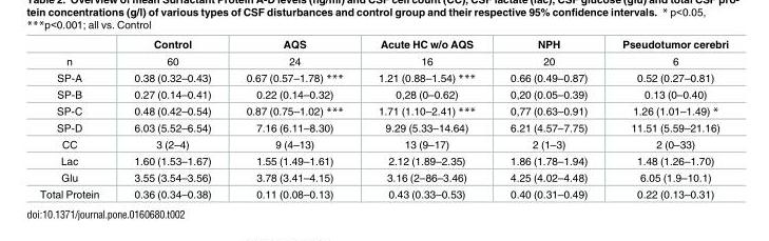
<table><thead><tr><td></td><td>Control</td><td>AQS</td><td>Acute HC w/o AQS</td><td>NPH</td><td>Pseudotumor cerebri</td></tr></thead><tbody><tr><td>n</td><td>60</td><td>24</td><td>16</td><td>20</td><td>6</td></tr><tr><td>SP-A</td><td>0.38 (0.32–0.43)</td><td>0.67 (0.57–1.78) ***</td><td>1.21 (0.88–1.54) ***</td><td>0.66 (0.49–0.87)</td><td>0.52 (0.27–0.81)</td></tr><tr><td>SP-B</td><td>0.27 (0.14–0.41)</td><td>0.22 (0.14–0.32)</td><td>0,28 (0–0.62)</td><td>0,20 (0.05–0.39)</td><td>0.13 (0–0.40)</td></tr><tr><td>SP-C</td><td>0.48 (0.42–0.54)</td><td>0.87 (0.75–1.02) ***</td><td>1.71 (1.10–2.41) ***</td><td>0,77 (0.63–0.91)</td><td>1.26 (1.01–1.49) *</td></tr><tr><td>SP-D</td><td>6.03 (5.52–6.54)</td><td>7.16 (6.11–8.30)</td><td>9.29 (5.33–14.64)</td><td>6.21 (4.57–7.75)</td><td>11.51 (5.59–21.16)</td></tr><tr><td>CC</td><td>3 (2–4)</td><td>9 (4–13)</td><td>13 (9–17)</td><td>2 (1–3)</td><td>2 (0–33)</td></tr><tr><td>Lac</td><td>1.60 (1.53–1.67)</td><td>1.55 (1.49–1.61)</td><td>2.12 (1.89–2.35)</td><td>1.86 (1.78–1.94)</td><td>1.48 (1.26–1.70)</td></tr><tr><td>Glu</td><td>3.55 (3.54–3.56)</td><td>3.78 (3.41–4.15)</td><td>3.16 (2–86–3.46)</td><td>4.25 (4.02–4.48)</td><td>6.05 (1.9–10.1)</td></tr><tr><td>Total Protein</td><td>0.36 (0.34–0.38)</td><td>0.11 (0.08–0.13)</td><td>0.43 (0.33–0.53)</td><td>0.40 (0.31–0.49)</td><td>0.22 (0.13–0.31)</td></tr></tbody></table>